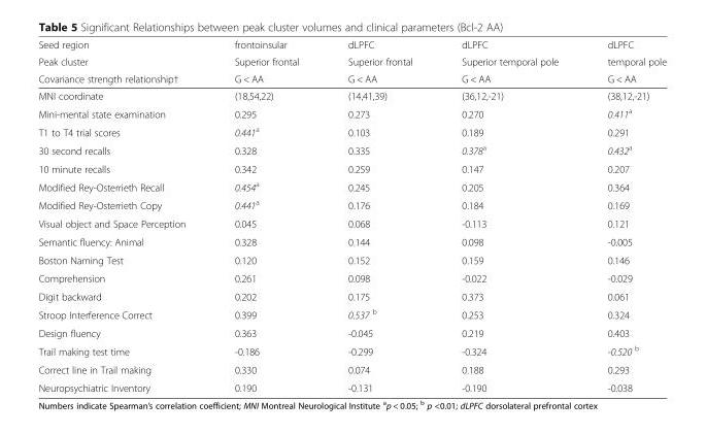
<table><thead><tr><td rowspan="3">Seed region Peak cluster Covariance strength relationship†</td><td rowspan="3">frontoinsular Superior frontal G &lt; AA</td><td rowspan="3">dLPFC Superior frontal G &lt; AA</td><td rowspan="3">dLPFC Superior temporal pole G &lt; AA</td><td rowspan="3">dLPFC temporal pole G &lt; AA</td></tr><tr></tr><tr></tr></thead><tbody><tr><td>MNI coordinate</td><td>(18,54,22)</td><td>(14,41,39)</td><td>(36,12,-21)</td><td>(38,12,-21)</td></tr><tr><td>Mini-mental state examination</td><td>0.295</td><td>0.273</td><td>0.270</td><td>0.411<sup>a</sup></td></tr><tr><td>T1 to T4 trial scores</td><td>0.441<sup>a</sup></td><td>0.103</td><td>0.189</td><td>0.291</td></tr><tr><td>30 second recalls</td><td>0.328</td><td>0.335</td><td>0.378<sup>a</sup></td><td>0.432<sup>a</sup></td></tr><tr><td>10 minute recalls</td><td>0.342</td><td>0.259</td><td>0.147</td><td>0.207</td></tr><tr><td>Modified Rey-Osterrieth Recall</td><td>0.454<sup>a</sup></td><td>0.245</td><td>0.205</td><td>0.364</td></tr><tr><td>Modified Rey-Osterrieth Copy</td><td>0.441<sup>a</sup></td><td>0.176</td><td>0.184</td><td>0.169</td></tr><tr><td>Visual object and Space Perception</td><td>0.045</td><td>0.068</td><td>-0.113</td><td>0.121</td></tr><tr><td>Semantic fluency: Animal</td><td>0.328</td><td>0.144</td><td>0.098</td><td>-0.005</td></tr><tr><td>Boston Naming Test</td><td>0.120</td><td>0.152</td><td>0.159</td><td>0.146</td></tr><tr><td>Comprehension</td><td>0.261</td><td>0.098</td><td>-0.022</td><td>-0.029</td></tr><tr><td>Digit backward</td><td>0.202</td><td>0.175</td><td>0.373</td><td>0.061</td></tr><tr><td>Stroop Interference Correct</td><td>0.399</td><td>0.537 <sup>b</sup></td><td>0.253</td><td>0.324</td></tr><tr><td>Design fluency</td><td>0.363</td><td>-0.045</td><td>0.219</td><td>0.403</td></tr><tr><td>Trail making test time</td><td>-0.186</td><td>-0.299</td><td>-0.324</td><td>-0.520 <sup>b</sup></td></tr><tr><td>Correct line in Trail making</td><td>0.330</td><td>0.074</td><td>0.188</td><td>0.293</td></tr><tr><td>Neuropsychiatric Inventory</td><td>0.190</td><td>-0.131</td><td>-0.190</td><td>-0.038</td></tr></tbody></table>